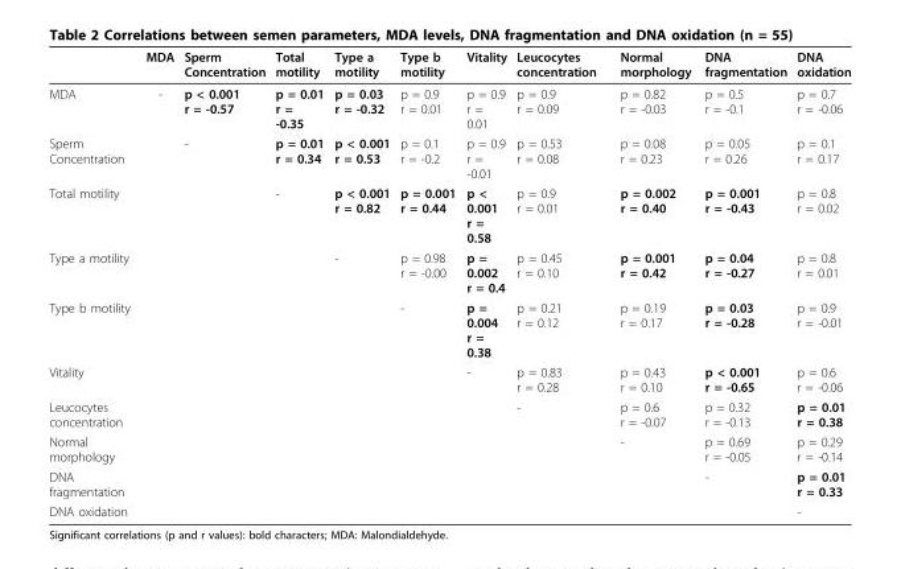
<table><thead><tr><td></td><td>MDA</td><td>Sperm Concentration</td><td>Total motility</td><td>Type a motility</td><td>Type b motility</td><td>Vitality</td><td>Leucocytes concentration</td><td>Normal morphology</td><td>DNA fragmentation</td><td>DNA oxidation</td></tr></thead><tbody><tr><td>MDA</td><td>-</td><td>p &lt; 0.001 r = -0.57</td><td>p = 0.01 r = -0.35</td><td>p = 0.03 r = -0.32</td><td>p = 0.9 r = 0.01</td><td>p = 0.9 r = 0.01</td><td>p = 0.9 r = 0.09</td><td>p = 0.82 r = -0.03</td><td>p = 0.5 r = -0.1</td><td>p = 0.7 r = -0.06</td></tr><tr><td>Sperm Concentration</td><td></td><td>-</td><td>p = 0.01 r = 0.34</td><td>p &lt; 0.001 r = 0.53</td><td>p = 0.1 r = -0.2</td><td>p = 0.9 r = -0.01</td><td>p = 0.53 r = 0.08</td><td>p = 0.08 r = 0.23</td><td>p = 0.05 r = 0.26</td><td>p = 0.1 r = 0.17</td></tr><tr><td>Total motility</td><td></td><td></td><td>-</td><td>p &lt; 0.001 r = 0.82</td><td>p = 0.001 r = 0.44</td><td>p &lt; 0.001 r = 0.58</td><td>p = 0.9 r = 0.01</td><td>p = 0.002 r = 0.40</td><td>p = 0.001 r = -0.43</td><td>p = 0.8 r = 0.02</td></tr><tr><td>Type a motility</td><td></td><td></td><td></td><td>-</td><td>p = 0.98 r = -0.00</td><td>p = 0.002 r = 0.4</td><td>p = 0.45 r = 0.10</td><td>p = 0.001 r = 0.42</td><td>p = 0.04 r = -0.27</td><td>p = 0.8 r = 0.01</td></tr><tr><td>Type b motility</td><td></td><td></td><td></td><td></td><td>-</td><td>p = 0.004 r = 0.38</td><td>p = 0.21 r = 0.12</td><td>p = 0.19 r = 0.17</td><td>p = 0.03 r = -0.28</td><td>p = 0.9 r = -0.01</td></tr><tr><td>Vitality</td><td></td><td></td><td></td><td></td><td></td><td>-</td><td>p = 0.83 r = 0.28</td><td>p = 0.43 r = 0.10</td><td>p &lt; 0.001 r = -0.65</td><td>p = 0.6 r = -0.06</td></tr><tr><td>Leucocytes concentration</td><td></td><td></td><td></td><td></td><td></td><td></td><td>-</td><td>p = 0.6 r = -0.07</td><td>p = 0.32 r = -0.13</td><td>p = 0.01 r = 0.38</td></tr><tr><td>Normal morphology</td><td></td><td></td><td></td><td></td><td></td><td></td><td></td><td>-</td><td>p = 0.69 r = -0.05</td><td>p = 0.29 r = -0.14</td></tr><tr><td>DNA fragmentation</td><td></td><td></td><td></td><td></td><td></td><td></td><td></td><td></td><td>-</td><td>p = 0.01 r = 0.33</td></tr><tr><td>DNA oxidation</td><td></td><td></td><td></td><td></td><td></td><td></td><td></td><td></td><td></td><td>-</td></tr></tbody></table>